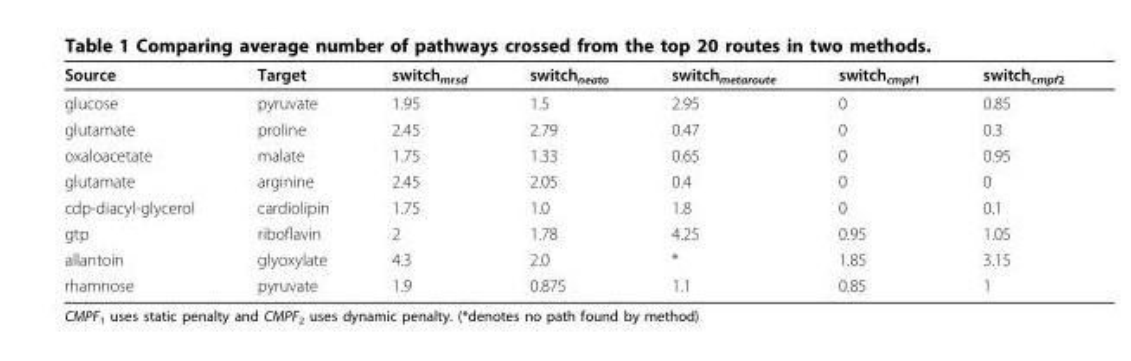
<table><thead><tr><td>Source</td><td>Target</td><td>switch<sub>mrsd</sub></td><td>switch<sub>neato</sub></td><td>switch<sub>metaroute</sub></td><td>switch<sub>cmpf1</sub></td><td>switch<sub>cmpf2</sub></td></tr></thead><tbody><tr><td>glucose</td><td>pyruvate</td><td>1.95</td><td>1.5</td><td>2.95</td><td>0</td><td>0.85</td></tr><tr><td>glutamate</td><td>proline</td><td>2.45</td><td>2.79</td><td>0.47</td><td>0</td><td>0.3</td></tr><tr><td>oxaloacetate</td><td>malate</td><td>1.75</td><td>1.33</td><td>0.65</td><td>0</td><td>0.95</td></tr><tr><td>glutamate</td><td>arginine</td><td>2.45</td><td>2.05</td><td>0.4</td><td>0</td><td>0</td></tr><tr><td>cdp-diacyl-glycerol</td><td>cardiolipin</td><td>1.75</td><td>1.0</td><td>1.8</td><td>0</td><td>0.1</td></tr><tr><td>gtp</td><td>riboflavin</td><td>2</td><td>1.78</td><td>4.25</td><td>0.95</td><td>1.05</td></tr><tr><td>allantoin</td><td>glyoxylate</td><td>4.3</td><td>2.0</td><td>*</td><td>1.85</td><td>3.15</td></tr><tr><td>rhamnose</td><td>pyruvate</td><td>1.9</td><td>0.875</td><td>1.1</td><td>0.85</td><td>1</td></tr></tbody></table>